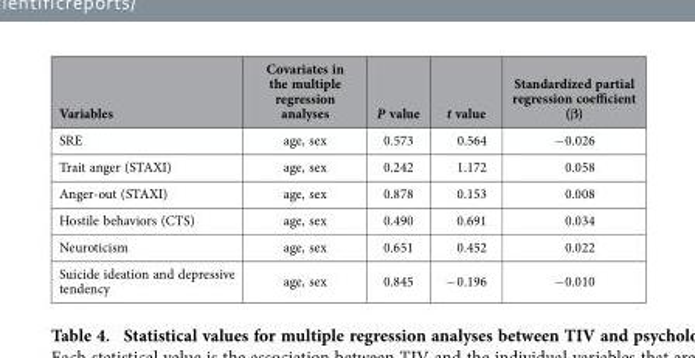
<table><thead><tr><td>Variables</td><td>Covariates in the multiple regression analyses</td><td>P value</td><td>t value</td><td>Standardized partial regression coefficient (β)</td></tr></thead><tbody><tr><td>SRE</td><td>age, sex</td><td>0.573</td><td>0.564</td><td>− 0.026</td></tr><tr><td>Trait anger (STAXI)</td><td>age, sex</td><td>0.242</td><td>1.172</td><td>0.058</td></tr><tr><td>Anger-out (STAXI)</td><td>age, sex</td><td>0.878</td><td>0.153</td><td>0.008</td></tr><tr><td>Hostile behaviors (CTS)</td><td>age, sex</td><td>0.490</td><td>0.691</td><td>0.034</td></tr><tr><td>Neuroticism</td><td>age, sex</td><td>0.651</td><td>0.452</td><td>0.022</td></tr><tr><td>Suicide ideation and depressive tendency</td><td>age, sex</td><td>0.845</td><td>− 0.196</td><td>− 0.010</td></tr></tbody></table>